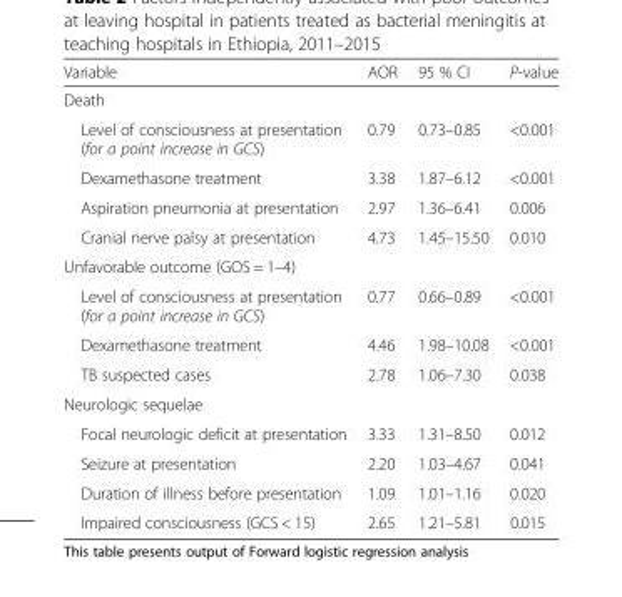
<table><thead><tr><td>Variable</td><td>AOR</td><td>95 % CI</td><td>P-value</td></tr></thead><tbody><tr><td colspan="4">Death</td></tr><tr><td>Level of consciousness at presentation (for a point increase in GCS)</td><td>0.79</td><td>0.73–0.85</td><td>&lt;0.001</td></tr><tr><td>Dexamethasone treatment</td><td>3.38</td><td>1.87–6.12</td><td>&lt;0.001</td></tr><tr><td>Aspiration pneumonia at presentation</td><td>2.97</td><td>1.36–6.41</td><td>0.006</td></tr><tr><td>Cranial nerve palsy at presentation</td><td>4.73</td><td>1.45–15.50</td><td>0.010</td></tr><tr><td colspan="4">Unfavorable outcome (GOS = 1–4)</td></tr><tr><td>Level of consciousness at presentation (for a point increase in GCS)</td><td>0.77</td><td>0.66–0.89</td><td>&lt;0.001</td></tr><tr><td>Dexamethasone treatment</td><td>4.46</td><td>1.98–10.08</td><td>&lt;0.001</td></tr><tr><td>TB suspected cases</td><td>2.78</td><td>1.06–7.30</td><td>0.038</td></tr><tr><td colspan="4">Neurologic sequelae</td></tr><tr><td>Focal neurologic deficit at presentation</td><td>3.33</td><td>1.31–8.50</td><td>0.012</td></tr><tr><td>Seizure at presentation</td><td>2.20</td><td>1.03–4.67</td><td>0.041</td></tr><tr><td>Duration of illness before presentation</td><td>1.09</td><td>1.01–1.16</td><td>0.020</td></tr><tr><td>Impaired consciousness (GCS &lt; 15)</td><td>2.65</td><td>1.21–5.81</td><td>0.015</td></tr></tbody></table>